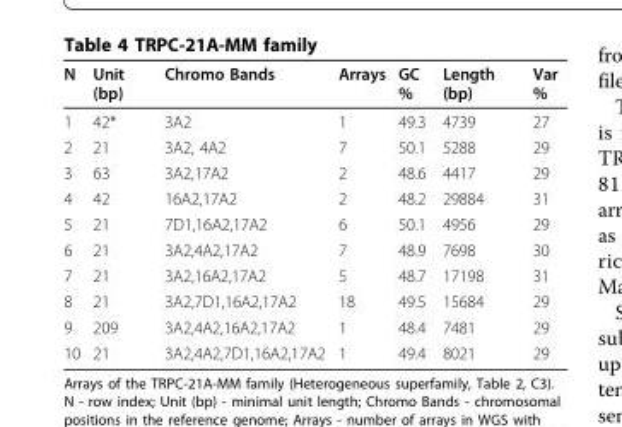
<table><thead><tr><td>N</td><td>Unit (bp)</td><td>Chromo Bands</td><td>Arrays</td><td>GC %</td><td>Length (bp)</td><td>Var %</td></tr></thead><tbody><tr><td>1</td><td>42*</td><td>3A2</td><td>1</td><td>49.3</td><td>4739</td><td>27</td></tr><tr><td>2</td><td>21</td><td>3A2, 4A2</td><td>7</td><td>50.1</td><td>5288</td><td>29</td></tr><tr><td>3</td><td>63</td><td>3A2,17A2</td><td>2</td><td>48.6</td><td>4417</td><td>29</td></tr><tr><td>4</td><td>42</td><td>16A2,17A2</td><td>2</td><td>48.2</td><td>29884</td><td>31</td></tr><tr><td>5</td><td>21</td><td>7D1,16A2,17A2</td><td>6</td><td>50.1</td><td>4956</td><td>29</td></tr><tr><td>6</td><td>21</td><td>3A2,4A2,17A2</td><td>7</td><td>48.9</td><td>7698</td><td>30</td></tr><tr><td>7</td><td>21</td><td>3A2,16A2,17A2</td><td>5</td><td>48.7</td><td>17198</td><td>31</td></tr><tr><td>8</td><td>21</td><td>3A2,7D1,16A2,17A2</td><td>18</td><td>49.5</td><td>15684</td><td>29</td></tr><tr><td>9</td><td>209</td><td>3A2,4A2,16A2,17A2</td><td>1</td><td>48.4</td><td>7481</td><td>29</td></tr><tr><td>10</td><td>21</td><td>3A2,4A2,7D1,16A2,17A2</td><td>1</td><td>49.4</td><td>8021</td><td>29</td></tr></tbody></table>